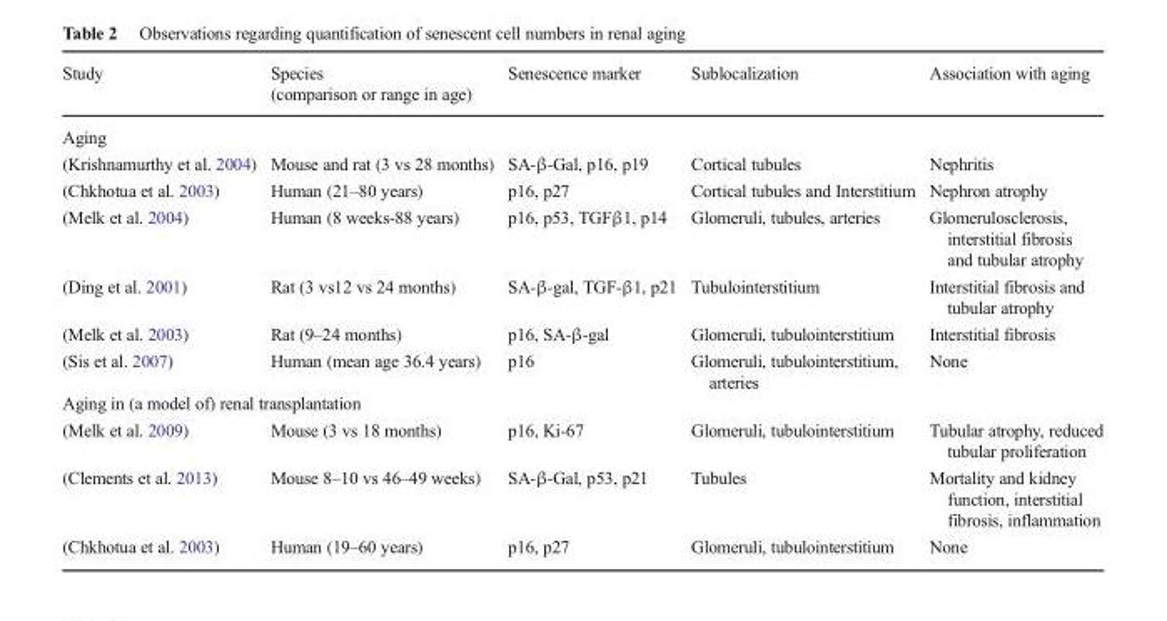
<table><thead><tr><td>Study</td><td>Species (comparison or range in age)</td><td>Senescence marker</td><td>Sublocalization</td><td>Association with aging</td></tr></thead><tbody><tr><td colspan="5">Aging</td></tr><tr><td>(Krishnamurthy et al. 2004)</td><td>Mouse and rat (3 vs 28 months)</td><td>SA-β-Gal, p16, p19</td><td>Cortical tubules</td><td>Nephritis</td></tr><tr><td>(Chkhotua et al. 2003)</td><td>Human (21–80 years)</td><td>p16, p27</td><td>Cortical tubules and Interstitium</td><td>Nephron atrophy</td></tr><tr><td>(Melk et al. 2004)</td><td>Human (8 weeks-88 years)</td><td>p16, p53, TGFβ1, p14</td><td>Glomeruli, tubules, arteries</td><td>Glomerulosclerosis, interstitial fibrosis and tubular atrophy</td></tr><tr><td>(Ding et al. 2001)</td><td>Rat (3 vs12 vs 24 months)</td><td>SA-β-gal, TGF-β1, p21</td><td>Tubulointerstitium</td><td>Interstitial fibrosis and tubular atrophy</td></tr><tr><td>(Melk et al. 2003)</td><td>Rat (9–24 months)</td><td>p16, SA-β-gal</td><td>Glomeruli, tubulointerstitium</td><td>Interstitial fibrosis</td></tr><tr><td>(Sis et al. 2007)</td><td>Human (mean age 36.4 years)</td><td>p16</td><td>Glomeruli, tubulointerstitium, arteries</td><td>None</td></tr><tr><td colspan="5">Aging in (a model of) renal transplantation</td></tr><tr><td>(Melk et al. 2009)</td><td>Mouse (3 vs 18 months)</td><td>p16, Ki-67</td><td>Glomeruli, tubulointerstitium</td><td>Tubular atrophy, reduced tubular proliferation</td></tr><tr><td>(Clements et al. 2013)</td><td>Mouse 8–10 vs 46–49 weeks)</td><td>SA-β-Gal, p53, p21</td><td>Tubules</td><td>Mortality and kidney function, interstitial fibrosis, inflammation</td></tr><tr><td>(Chkhotua et al. 2003)</td><td>Human (19–60 years)</td><td>p16, p27</td><td>Glomeruli, tubulointerstitium</td><td>None</td></tr></tbody></table>